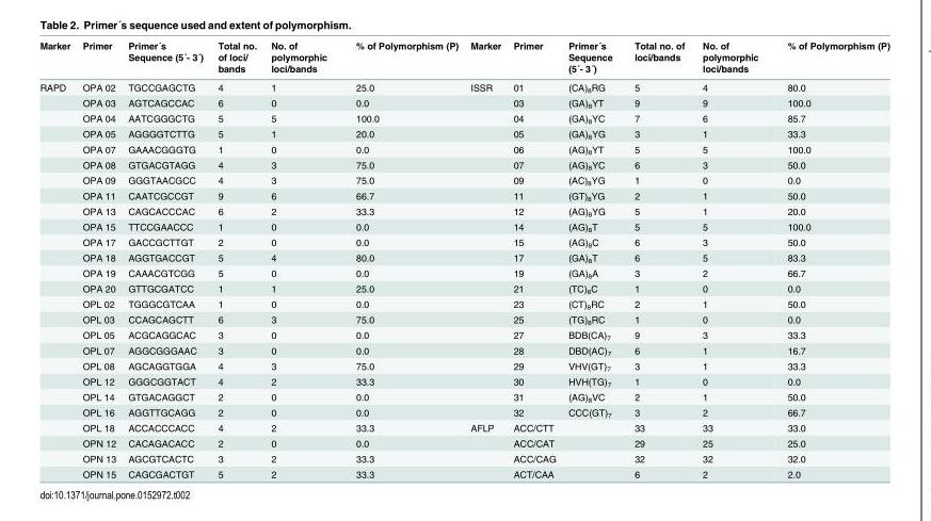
<table><thead><tr><td>Marker</td><td>Primer</td><td>Primer´s Sequence (5´- 3´)</td><td>Total no. of loci/ bands</td><td>No. of polymorphic loci/bands</td><td>% of Polymorphism (P)</td><td>Marker</td><td>Primer</td><td>Primer´s Sequence (5´- 3´)</td><td>Total no. of loci/bands</td><td>No. of polymorphic loci/bands</td><td>% of Polymorphism (P)</td></tr></thead><tbody><tr><td rowspan="26">RAPD</td><td>OPA 02</td><td>TGCCGAGCTG</td><td>4</td><td>1</td><td>25.0</td><td>ISSR</td><td>01</td><td>(CA)<sub>8</sub>RG</td><td>5</td><td>4</td><td>80.0</td></tr><tr><td>OPA 03</td><td>AGTCAGCCAC</td><td>6</td><td>0</td><td>0.0</td><td></td><td>03</td><td>(GA)<sub>8</sub>YT</td><td>9</td><td>9</td><td>100.0</td></tr><tr><td>OPA 04</td><td>AATCGGGCTG</td><td>5</td><td>5</td><td>100.0</td><td></td><td>04</td><td>(GA)<sub>8</sub>YC</td><td>7</td><td>6</td><td>85.7</td></tr><tr><td>OPA 05</td><td>AGGGGTCTTG</td><td>5</td><td>1</td><td>20.0</td><td></td><td>05</td><td>(GA)<sub>8</sub>YG</td><td>3</td><td>1</td><td>33.3</td></tr><tr><td>OPA 07</td><td>GAAACGGGTG</td><td>1</td><td>0</td><td>0.0</td><td></td><td>06</td><td>(AG)<sub>8</sub>YT</td><td>5</td><td>5</td><td>100.0</td></tr><tr><td>OPA 08</td><td>GTGACGTAGG</td><td>4</td><td>3</td><td>75.0</td><td></td><td>07</td><td>(AG)<sub>8</sub>YC</td><td>6</td><td>3</td><td>50.0</td></tr><tr><td>OPA 09</td><td>GGGTAACGCC</td><td>4</td><td>3</td><td>75.0</td><td></td><td>09</td><td>(AC)<sub>8</sub>YG</td><td>1</td><td>0</td><td>0.0</td></tr><tr><td>OPA 11</td><td>CAATCGCCGT</td><td>9</td><td>6</td><td>66.7</td><td></td><td>11</td><td>(GT)<sub>8</sub>YG</td><td>2</td><td>1</td><td>50.0</td></tr><tr><td>OPA 13</td><td>CAGCACCCAC</td><td>6</td><td>2</td><td>33.3</td><td></td><td>12</td><td>(AG)<sub>8</sub>YG</td><td>5</td><td>1</td><td>20.0</td></tr><tr><td>OPA 15</td><td>TTCCGAACCC</td><td>1</td><td>0</td><td>0.0</td><td></td><td>14</td><td>(AG)<sub>8</sub>T</td><td>5</td><td>5</td><td>100.0</td></tr><tr><td>OPA 17</td><td>GACCGCTTGT</td><td>2</td><td>0</td><td>0.0</td><td></td><td>15</td><td>(AG)<sub>8</sub>C</td><td>6</td><td>3</td><td>50.0</td></tr><tr><td>OPA 18</td><td>AGGTGACCGT</td><td>5</td><td>4</td><td>80.0</td><td></td><td>17</td><td>(GA)<sub>8</sub>T</td><td>6</td><td>5</td><td>83.3</td></tr><tr><td>OPA 19</td><td>CAAACGTCGG</td><td>5</td><td>0</td><td>0.0</td><td></td><td>19</td><td>(GA)<sub>8</sub>A</td><td>3</td><td>2</td><td>66.7</td></tr><tr><td>OPA 20</td><td>GTTGCGATCC</td><td>1</td><td>1</td><td>25.0</td><td></td><td>21</td><td>(TC)<sub>8</sub>C</td><td>1</td><td>0</td><td>0.0</td></tr><tr><td>OPL 02</td><td>TGGGCGTCAA</td><td>1</td><td>0</td><td>0.0</td><td></td><td>23</td><td>(CT)<sub>8</sub>RC</td><td>2</td><td>1</td><td>50.0</td></tr><tr><td>OPL 03</td><td>CCAGCAGCTT</td><td>6</td><td>3</td><td>75.0</td><td></td><td>25</td><td>(TG)<sub>8</sub>RC</td><td>1</td><td>0</td><td>0.0</td></tr><tr><td>OPL 05</td><td>ACGCAGGCAC</td><td>3</td><td>0</td><td>0.0</td><td></td><td>27</td><td>BDB(CA)<sub>7</sub></td><td>9</td><td>3</td><td>33.3</td></tr><tr><td>OPL 07</td><td>AGGCGGGAAC</td><td>3</td><td>0</td><td>0.0</td><td></td><td>28</td><td>DBD(AC)<sub>7</sub></td><td>6</td><td>1</td><td>16.7</td></tr><tr><td>OPL 08</td><td>AGCAGGTGGA</td><td>4</td><td>3</td><td>75.0</td><td></td><td>29</td><td>VHV(GT)<sub>7</sub></td><td>3</td><td>1</td><td>33.3</td></tr><tr><td>OPL 12</td><td>GGGCGGTACT</td><td>4</td><td>2</td><td>33.3</td><td></td><td>30</td><td>HVH(TG)<sub>7</sub></td><td>1</td><td>0</td><td>0.0</td></tr><tr><td>OPL 14</td><td>GTGACAGGCT</td><td>2</td><td>0</td><td>0.0</td><td></td><td>31</td><td>(AG)<sub>8</sub>VC</td><td>2</td><td>1</td><td>50.0</td></tr><tr><td>OPL 16</td><td>AGGTTGCAGG</td><td>2</td><td>0</td><td>0.0</td><td></td><td>32</td><td>CCC(GT)<sub>7</sub></td><td>3</td><td>2</td><td>66.7</td></tr><tr><td>OPL 18</td><td>ACCACCCACC</td><td>4</td><td>2</td><td>33.3</td><td>AFLP</td><td>ACC/CTT</td><td></td><td>33</td><td>33</td><td>33.0</td></tr><tr><td>OPN 12</td><td>CACAGACACC</td><td>2</td><td>0</td><td>0.0</td><td></td><td>ACC/CAT</td><td></td><td>29</td><td>25</td><td>25.0</td></tr><tr><td>OPN 13</td><td>AGCGTCACTC</td><td>3</td><td>2</td><td>33.3</td><td></td><td>ACC/CAG</td><td></td><td>32</td><td>32</td><td>32.0</td></tr><tr><td>OPN 15</td><td>CAGCGACTGT</td><td>5</td><td>2</td><td>33.3</td><td></td><td>ACT/CAA</td><td></td><td>6</td><td>2</td><td>2.0</td></tr></tbody></table>